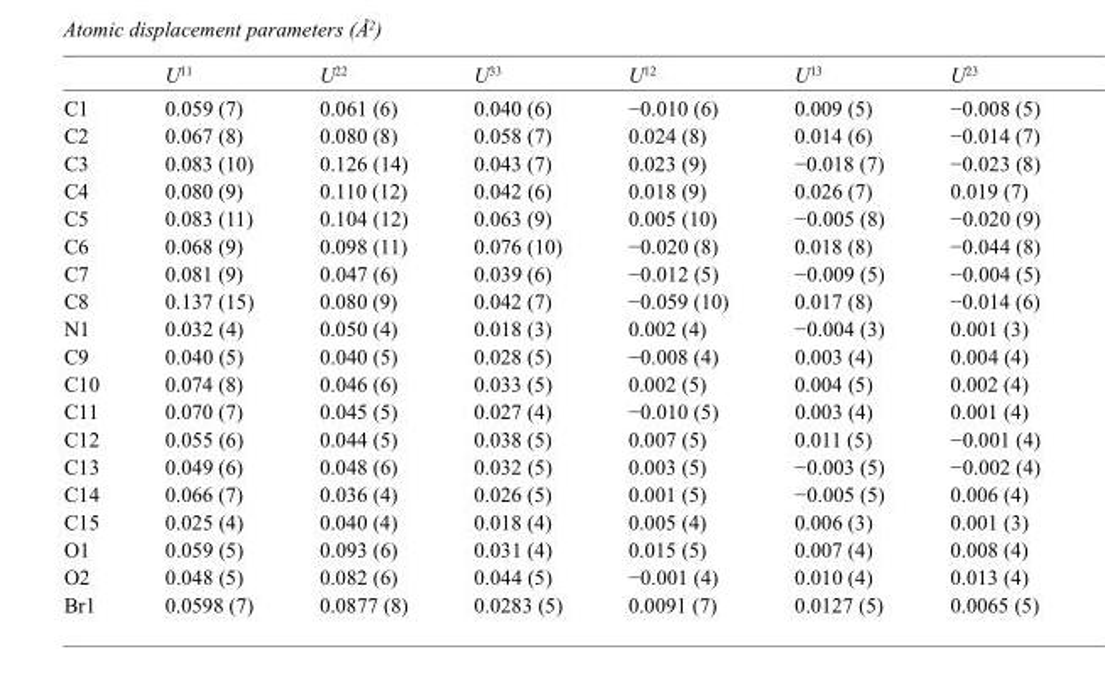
<table><thead><tr><td></td><td>U<sup>11</sup></td><td>U<sup>22</sup></td><td>U<sup>33</sup></td><td>U<sup>12</sup></td><td>U<sup>13</sup></td><td>U<sup>23</sup></td></tr></thead><tbody><tr><td>C1</td><td>0.059 (7)</td><td>0.061 (6)</td><td>0.040 (6)</td><td>−0.010 (6)</td><td>0.009 (5)</td><td>−0.008 (5)</td></tr><tr><td>C2</td><td>0.067 (8)</td><td>0.080 (8)</td><td>0.058 (7)</td><td>0.024 (8)</td><td>0.014 (6)</td><td>−0.014 (7)</td></tr><tr><td>C3</td><td>0.083 (10)</td><td>0.126 (14)</td><td>0.043 (7)</td><td>0.023 (9)</td><td>−0.018 (7)</td><td>−0.023 (8)</td></tr><tr><td>C4</td><td>0.080 (9)</td><td>0.110 (12)</td><td>0.042 (6)</td><td>0.018 (9)</td><td>0.026 (7)</td><td>0.019 (7)</td></tr><tr><td>C5</td><td>0.083 (11)</td><td>0.104 (12)</td><td>0.063 (9)</td><td>0.005 (10)</td><td>−0.005 (8)</td><td>−0.020 (9)</td></tr><tr><td>C6</td><td>0.068 (9)</td><td>0.098 (11)</td><td>0.076 (10)</td><td>−0.020 (8)</td><td>0.018 (8)</td><td>−0.044 (8)</td></tr><tr><td>C7</td><td>0.081 (9)</td><td>0.047 (6)</td><td>0.039 (6)</td><td>−0.012 (5)</td><td>−0.009 (5)</td><td>−0.004 (5)</td></tr><tr><td>C8</td><td>0.137 (15)</td><td>0.080 (9)</td><td>0.042 (7)</td><td>−0.059 (10)</td><td>0.017 (8)</td><td>−0.014 (6)</td></tr><tr><td>N1</td><td>0.032 (4)</td><td>0.050 (4)</td><td>0.018 (3)</td><td>0.002 (4)</td><td>−0.004 (3)</td><td>0.001 (3)</td></tr><tr><td>C9</td><td>0.040 (5)</td><td>0.040 (5)</td><td>0.028 (5)</td><td>−0.008 (4)</td><td>0.003 (4)</td><td>0.004 (4)</td></tr><tr><td>C10</td><td>0.074 (8)</td><td>0.046 (6)</td><td>0.033 (5)</td><td>0.002 (5)</td><td>0.004 (5)</td><td>0.002 (4)</td></tr><tr><td>C11</td><td>0.070 (7)</td><td>0.045 (5)</td><td>0.027 (4)</td><td>−0.010 (5)</td><td>0.003 (4)</td><td>0.001 (4)</td></tr><tr><td>C12</td><td>0.055 (6)</td><td>0.044 (5)</td><td>0.038 (5)</td><td>0.007 (5)</td><td>0.011 (5)</td><td>−0.001 (4)</td></tr><tr><td>C13</td><td>0.049 (6)</td><td>0.048 (6)</td><td>0.032 (5)</td><td>0.003 (5)</td><td>−0.003 (5)</td><td>−0.002 (4)</td></tr><tr><td>C14</td><td>0.066 (7)</td><td>0.036 (4)</td><td>0.026 (5)</td><td>0.001 (5)</td><td>−0.005 (5)</td><td>0.006 (4)</td></tr><tr><td>C15</td><td>0.025 (4)</td><td>0.040 (4)</td><td>0.018 (4)</td><td>0.005 (4)</td><td>0.006 (3)</td><td>0.001 (3)</td></tr><tr><td>O1</td><td>0.059 (5)</td><td>0.093 (6)</td><td>0.031 (4)</td><td>0.015 (5)</td><td>0.007 (4)</td><td>0.008 (4)</td></tr><tr><td>O2</td><td>0.048 (5)</td><td>0.082 (6)</td><td>0.044 (5)</td><td>−0.001 (4)</td><td>0.010 (4)</td><td>0.013 (4)</td></tr><tr><td>Br1</td><td>0.0598 (7)</td><td>0.0877 (8)</td><td>0.0283 (5)</td><td>0.0091 (7)</td><td>0.0127 (5)</td><td>0.0065 (5)</td></tr></tbody></table>